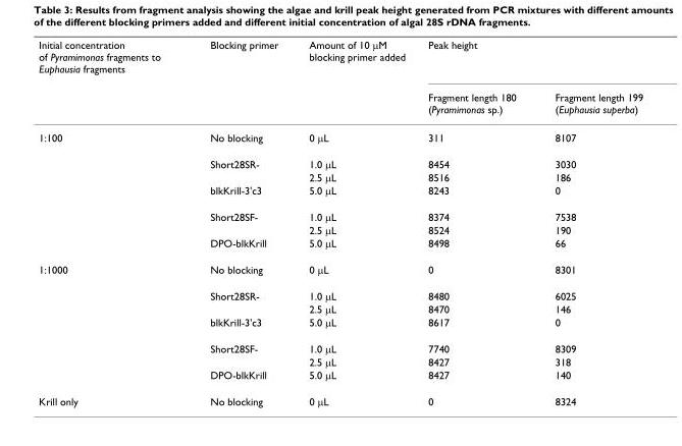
<table><thead><tr><td rowspan="2">Initial concentration of Pyramimonas fragments to Euphausia fragments</td><td rowspan="2">Blocking primer</td><td rowspan="2">Amount of 10 μM blocking primer added</td><td colspan="2">Peak height</td></tr><tr><td>Fragment length 180 (Pyramimonas sp.)</td><td>Fragment length 199 (Euphausia superba)</td></tr></thead><tbody><tr><td rowspan="7">1:100</td><td>No blocking</td><td>0 μL</td><td>311</td><td>8107</td></tr><tr><td>Short28SR-</td><td>1.0 μL</td><td>8454</td><td>3030</td></tr><tr><td></td><td>2.5 μL</td><td>8516</td><td>186</td></tr><tr><td>blkKrill-3&#x27;c3</td><td>5.0 μL</td><td>8243</td><td>0</td></tr><tr><td>Short28SF-</td><td>1.0 μL</td><td>8374</td><td>7538</td></tr><tr><td></td><td>2.5 μL</td><td>8524</td><td>190</td></tr><tr><td>DPO-blkKrill</td><td>5.0 μL</td><td>8498</td><td>66</td></tr><tr><td rowspan="7">1:1000</td><td>No blocking</td><td>0 μL</td><td>0</td><td>8301</td></tr><tr><td>Short28SR-</td><td>1.0 μL</td><td>8480</td><td>6025</td></tr><tr><td></td><td>2.5 μL</td><td>8470</td><td>146</td></tr><tr><td>blkKrill-3&#x27;c3</td><td>5.0 μL</td><td>8617</td><td>0</td></tr><tr><td>Short28SF-</td><td>1.0 μL</td><td>7740</td><td>8309</td></tr><tr><td></td><td>2.5 μL</td><td>8427</td><td>318</td></tr><tr><td>DPO-blkKrill</td><td>5.0 μL</td><td>8427</td><td>140</td></tr><tr><td>Krill only</td><td>No blocking</td><td>0 μL</td><td>0</td><td>8324</td></tr></tbody></table>